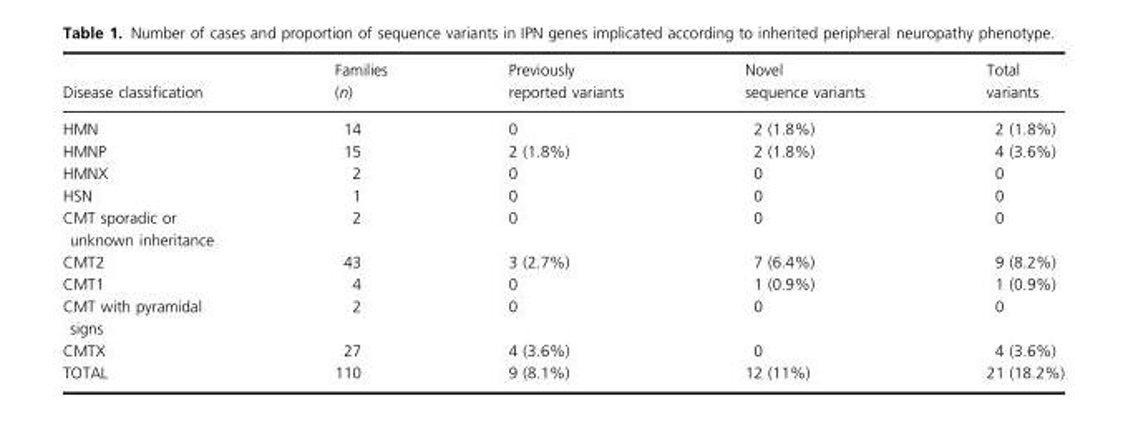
<table><thead><tr><td>Disease classification</td><td>Families (n)</td><td>Previously reported variants</td><td>Novel sequence variants</td><td>Total variants</td></tr></thead><tbody><tr><td>HMN</td><td>14</td><td>0</td><td>2 (1.8%)</td><td>2 (1.8%)</td></tr><tr><td>HMNP</td><td>15</td><td>2 (1.8%)</td><td>2 (1.8%)</td><td>4 (3.6%)</td></tr><tr><td>HMNX</td><td>2</td><td>0</td><td>0</td><td>0</td></tr><tr><td>HSN</td><td>1</td><td>0</td><td>0</td><td>0</td></tr><tr><td>CMT sporadic or unknown inheritance</td><td>2</td><td>0</td><td>0</td><td>0</td></tr><tr><td>CMT2</td><td>43</td><td>3 (2.7%)</td><td>7 (6.4%)</td><td>9 (8.2%)</td></tr><tr><td>CMT1</td><td>4</td><td>0</td><td>1 (0.9%)</td><td>1 (0.9%)</td></tr><tr><td>CMT with pyramidal signs</td><td>2</td><td>0</td><td>0</td><td>0</td></tr><tr><td>CMTX</td><td>27</td><td>4 (3.6%)</td><td>0</td><td>4 (3.6%)</td></tr><tr><td>TOTAL</td><td>110</td><td>9 (8.1%)</td><td>12 (11%)</td><td>21 (18.2%)</td></tr></tbody></table>